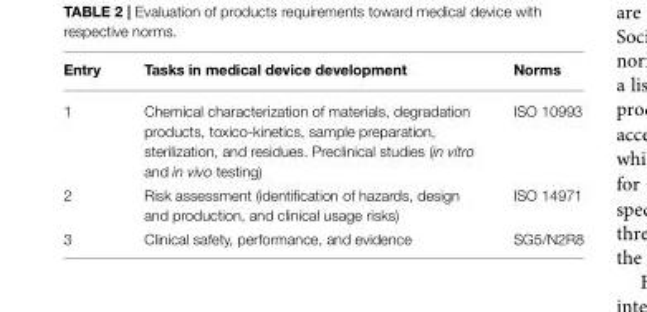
<table><thead><tr><td>Entry</td><td>Tasks in medical device development</td><td>Norms</td></tr></thead><tbody><tr><td>1</td><td>Chemical characterization of materials, degradation products, toxico-kinetics, sample preparation, sterilization, and residues. Preclinical studies (in vitro and in vivo testing)</td><td>ISO 10993</td></tr><tr><td>2</td><td>Risk assessment (identification of hazards, design and production, and clinical usage risks)</td><td>ISO 14971</td></tr><tr><td>3</td><td>Clinical safety, performance, and evidence</td><td>SG5/N2R8</td></tr></tbody></table>